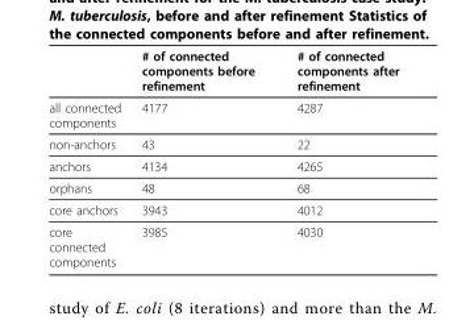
<table><thead><tr><td></td><td># of connected components before refinement</td><td># of connected components after refinement</td></tr></thead><tbody><tr><td>all connected components</td><td>4177</td><td>4287</td></tr><tr><td>non-anchors</td><td>43</td><td>22</td></tr><tr><td>anchors</td><td>4134</td><td>4265</td></tr><tr><td>orphans</td><td>48</td><td>68</td></tr><tr><td>core anchors</td><td>3943</td><td>4012</td></tr><tr><td>core connected components</td><td>3985</td><td>4030</td></tr></tbody></table>